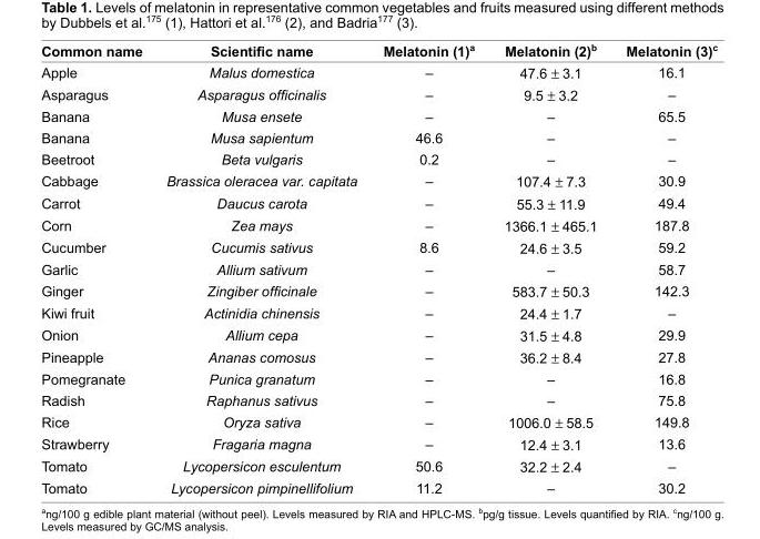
<table><thead><tr><td>Common name</td><td>Scientifi c name</td><td>Melatonin (1)<sup>a</sup></td><td>Melatonin (2)<sup>b</sup></td><td>Melatonin (3)<sup>c</sup></td></tr></thead><tbody><tr><td>Apple</td><td>Malus domestica</td><td>–</td><td>47.6 ± 3.1</td><td>16.1</td></tr><tr><td>Asparagus</td><td>Asparagus offi cinalis</td><td>–</td><td>9.5 ± 3.2</td><td>–</td></tr><tr><td>Banana</td><td>Musa ensete</td><td>–</td><td>–</td><td>65.5</td></tr><tr><td>Banana</td><td>Musa sapientum</td><td>46.6</td><td>–</td><td>–</td></tr><tr><td>Beetroot</td><td>Beta vulgaris</td><td>0.2</td><td>–</td><td>–</td></tr><tr><td>Cabbage</td><td>Brassica oleracea var. capitata</td><td>–</td><td>107.4 ± 7.3</td><td>30.9</td></tr><tr><td>Carrot</td><td>Daucus carota</td><td>–</td><td>55.3 ± 11.9</td><td>49.4</td></tr><tr><td>Corn</td><td>Zea mays</td><td>–</td><td>1366.1 ± 465.1</td><td>187.8</td></tr><tr><td>Cucumber</td><td>Cucumis sativus</td><td>8.6</td><td>24.6 ± 3.5</td><td>59.2</td></tr><tr><td>Garlic</td><td>Allium sativum</td><td>–</td><td>–</td><td>58.7</td></tr><tr><td>Ginger</td><td>Zingiber offi cinale</td><td>–</td><td>583.7 ± 50.3</td><td>142.3</td></tr><tr><td>Kiwi fruit</td><td>Actinidia chinensis</td><td>–</td><td>24.4 ± 1.7</td><td>–</td></tr><tr><td>Onion</td><td>Allium cepa</td><td>–</td><td>31.5 ± 4.8</td><td>29.9</td></tr><tr><td>Pineapple</td><td>Ananas comosus</td><td>–</td><td>36.2 ± 8.4</td><td>27.8</td></tr><tr><td>Pomegranate</td><td>Punica granatum</td><td>–</td><td>–</td><td>16.8</td></tr><tr><td>Radish</td><td>Raphanus sativus</td><td>–</td><td>–</td><td>75.8</td></tr><tr><td>Rice</td><td>Oryza sativa</td><td>–</td><td>1006.0 ± 58.5</td><td>149.8</td></tr><tr><td>Strawberry</td><td>Fragaria magna</td><td>–</td><td>12.4 ± 3.1</td><td>13.6</td></tr><tr><td>Tomato</td><td>Lycopersicon esculentum</td><td>50.6</td><td>32.2 ± 2.4</td><td>–</td></tr><tr><td>Tomato</td><td>Lycopersicon pimpinellifolium</td><td>11.2</td><td>–</td><td>30.2</td></tr></tbody></table>